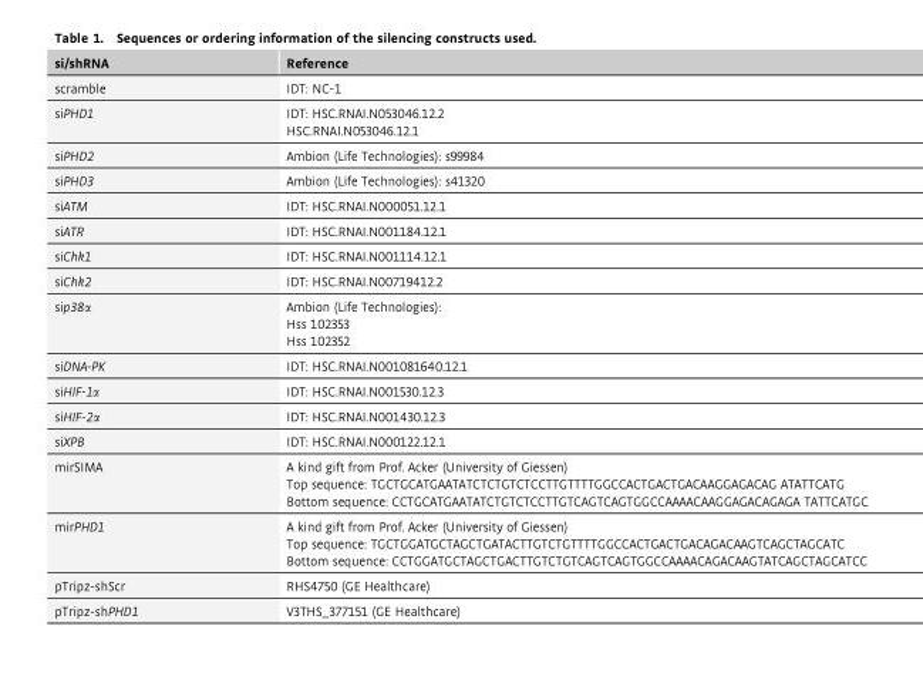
<table><thead><tr><td>si/shRNA</td><td>Reference</td></tr></thead><tbody><tr><td>scramble</td><td>IDT: NC-1</td></tr><tr><td rowspan="2">siPHD1</td><td>IDT: HSC.RNAI.N053046.12.2</td></tr><tr><td>HSC.RNAI.N053046.12.1</td></tr><tr><td>siPHD2</td><td>Ambion (Life Technologies): s99984</td></tr><tr><td>siPHD3</td><td>Ambion (Life Technologies): s41320</td></tr><tr><td>siATM</td><td>IDT: HSC.RNAI.N000051.12.1</td></tr><tr><td>siATR</td><td>IDT: HSC.RNAI.N001184.12.1</td></tr><tr><td>siChk1</td><td>IDT: HSC.RNAI.N001114.12.1</td></tr><tr><td>siChk2</td><td>IDT: HSC.RNAI.N00719412.2</td></tr><tr><td rowspan="3">sip38α</td><td>Ambion (Life Technologies):</td></tr><tr><td>Hss 102353</td></tr><tr><td>Hss 102352</td></tr><tr><td>siDNA-PK</td><td>IDT: HSC.RNAI.N001081640.12.1</td></tr><tr><td>siHIF-1α</td><td>IDT: HSC.RNAI.N001530.12.3</td></tr><tr><td>siHIF-2α</td><td>IDT: HSC.RNAI.N001430.12.3</td></tr><tr><td>siXPB</td><td>IDT: HSC.RNAI.N000122.12.1</td></tr><tr><td rowspan="3">mirSIMA</td><td>A kind gift from Prof. Acker (University of Giessen)</td></tr><tr><td>Top sequence: TGCTGCATGAATATCTCTGTCTCCTTGTTTTGGCCACTGACTGACAAGGAGACAG ATATTCATG</td></tr><tr><td>Bottom sequence: CCTGCATGAATATCTGTCTCCTTGTCAGTCAGTGGCCAAAACAAGGAGACAGAGA TATTCATGC</td></tr><tr><td rowspan="3">mirPHD1</td><td>A kind gift from Prof. Acker (University of Giessen)</td></tr><tr><td>Top sequence: TGCTGGATGCTAGCTGATACTTGTCTGTTTTGGCCACTGACTGACAGACAAGTCAGCTAGCATC</td></tr><tr><td>Bottom sequence: CCTGGATGCTAGCTGACTTGTCTGTCAGTCAGTGGCCAAAACAGACAAGTATCAGCTAGCATCC</td></tr><tr><td>pTripz-shScr</td><td>RHS4750 (GE Healthcare)</td></tr><tr><td>pTripz-shPHD1</td><td>V3THS_377151 (GE Healthcare)</td></tr></tbody></table>